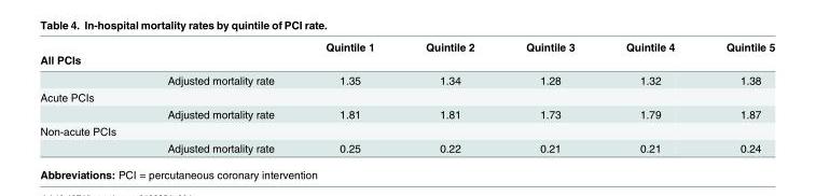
<table><thead><tr><td rowspan="2">All PCIs</td><td rowspan="2"></td><td rowspan="2">Quintile 1</td><td rowspan="2">Quintile 2</td><td rowspan="2">Quintile 3</td><td rowspan="2">Quintile 4</td><td rowspan="2">Quintile 5</td></tr><tr></tr></thead><tbody><tr><td></td><td>Adjusted mortality rate</td><td>1.35</td><td>1.34</td><td>1.28</td><td>1.32</td><td>1.38</td></tr><tr><td colspan="7">Acute PCIs</td></tr><tr><td></td><td>Adjusted mortality rate</td><td>1.81</td><td>1.81</td><td>1.73</td><td>1.79</td><td>1.87</td></tr><tr><td colspan="7">Non-acute PCIs</td></tr><tr><td></td><td>Adjusted mortality rate</td><td>0.25</td><td>0.22</td><td>0.21</td><td>0.21</td><td>0.24</td></tr></tbody></table>